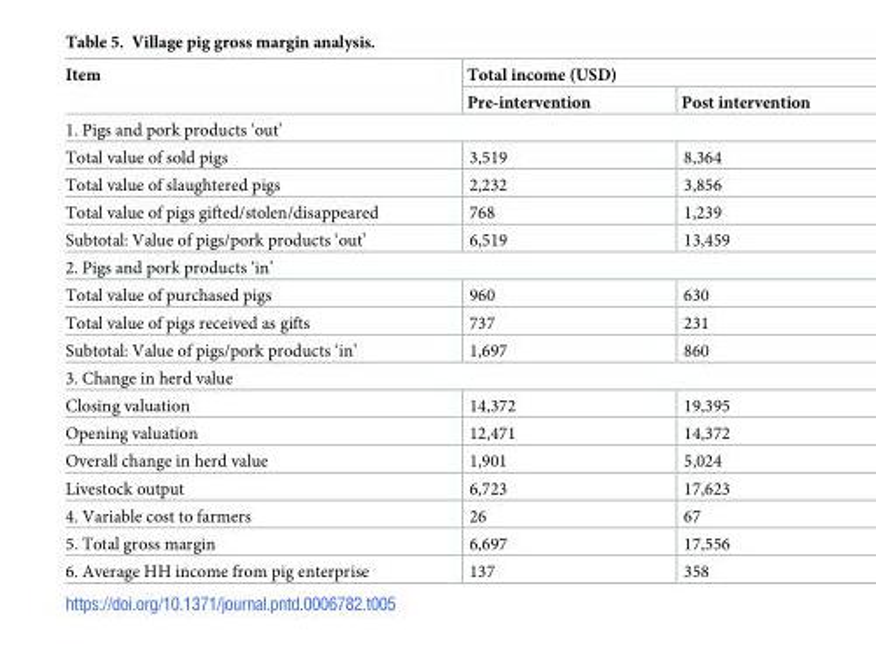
<table><thead><tr><td rowspan="2">Item</td><td colspan="2">Total income (USD)</td></tr><tr><td>Pre-intervention</td><td>Post intervention</td></tr></thead><tbody><tr><td colspan="3">1. Pigs and pork products ‘out’</td></tr><tr><td>Total value of sold pigs</td><td>3,519</td><td>8,364</td></tr><tr><td>Total value of slaughtered pigs</td><td>2,232</td><td>3,856</td></tr><tr><td>Total value of pigs gifted/stolen/disappeared</td><td>768</td><td>1,239</td></tr><tr><td>Subtotal: Value of pigs/pork products ‘out’</td><td>6,519</td><td>13,459</td></tr><tr><td colspan="3">2. Pigs and pork products ‘in’</td></tr><tr><td>Total value of purchased pigs</td><td>960</td><td>630</td></tr><tr><td>Total value of pigs received as gifts</td><td>737</td><td>231</td></tr><tr><td>Subtotal: Value of pigs/pork products ‘in’</td><td>1,697</td><td>860</td></tr><tr><td colspan="3">3. Change in herd value</td></tr><tr><td>Closing valuation</td><td>14,372</td><td>19,395</td></tr><tr><td>Opening valuation</td><td>12,471</td><td>14,372</td></tr><tr><td>Overall change in herd value</td><td>1,901</td><td>5,024</td></tr><tr><td>Livestock output</td><td>6,723</td><td>17,623</td></tr><tr><td>4. Variable cost to farmers</td><td>26</td><td>67</td></tr><tr><td>5. Total gross margin</td><td>6,697</td><td>17,556</td></tr><tr><td>6. Average HH income from pig enterprise</td><td>137</td><td>358</td></tr></tbody></table>